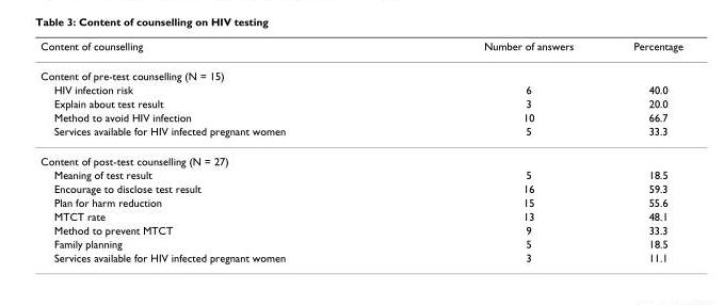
<table><thead><tr><td>Content of counselling</td><td>Number of answers</td><td>Percentage</td></tr></thead><tbody><tr><td colspan="3">Content of pre-test counselling (N = 15)</td></tr><tr><td>HIV infection risk</td><td>6</td><td>40.0</td></tr><tr><td>Explain about test result</td><td>3</td><td>20.0</td></tr><tr><td>Method to avoid HIV infection</td><td>10</td><td>66.7</td></tr><tr><td>Services available for HIV infected pregnant women</td><td>5</td><td>33.3</td></tr><tr><td colspan="3">Content of post-test counselling (N = 27)</td></tr><tr><td>Meaning of test result</td><td>5</td><td>18.5</td></tr><tr><td>Encourage to disclose test result</td><td>16</td><td>59.3</td></tr><tr><td>Plan for harm reduction</td><td>15</td><td>55.6</td></tr><tr><td>MTCT rate</td><td>13</td><td>48.1</td></tr><tr><td>Method to prevent MTCT</td><td>9</td><td>33.3</td></tr><tr><td>Family planning</td><td>5</td><td>18.5</td></tr><tr><td>Services available for HIV infected pregnant women</td><td>3</td><td>11.1</td></tr></tbody></table>